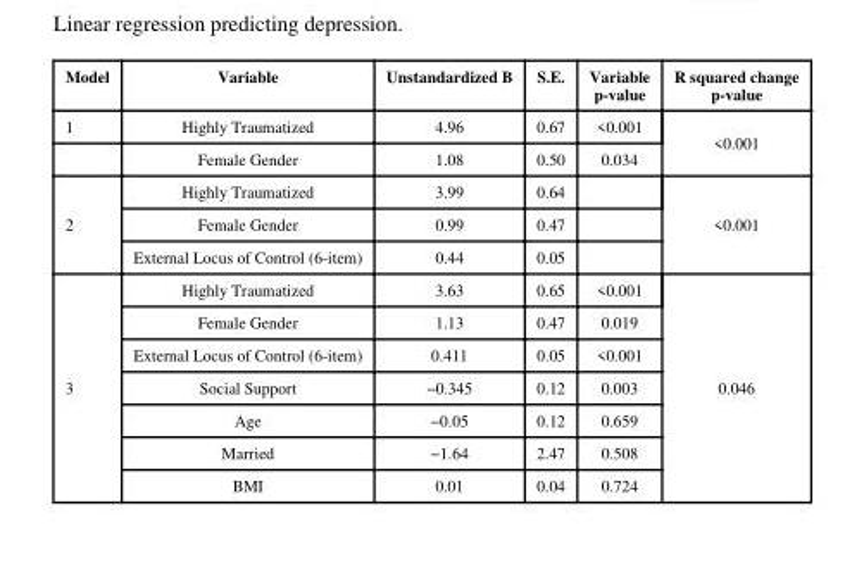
<table><thead><tr><td>Model</td><td>Variable</td><td>Unstandardized B</td><td>S.E.</td><td>Variable p-value</td><td>R squared change p-value</td></tr></thead><tbody><tr><td rowspan="2">1</td><td>Highly Traumatized</td><td>4.96</td><td>0.67</td><td>&lt;0.001</td><td rowspan="2">&lt;0.001</td></tr><tr><td>Female Gender</td><td>1.08</td><td>0.50</td><td>0.034</td></tr><tr><td rowspan="3">2</td><td>Highly Traumatized</td><td>3.99</td><td>0.64</td><td></td><td rowspan="3">&lt;0.001</td></tr><tr><td>Female Gender</td><td>0.99</td><td>0.47</td><td></td></tr><tr><td>External Locus of Control (6-item)</td><td>0.44</td><td>0.05</td><td></td></tr><tr><td rowspan="7">3</td><td>Highly Traumatized</td><td>3.63</td><td>0.65</td><td>&lt;0.001</td><td rowspan="7">0.046</td></tr><tr><td>Female Gender</td><td>1.13</td><td>0.47</td><td>0.019</td></tr><tr><td>External Locus of Control (6-item)</td><td>0.411</td><td>0.05</td><td>&lt;0.001</td></tr><tr><td>Social Support</td><td>−0.345</td><td>0.12</td><td>0.003</td></tr><tr><td>Age</td><td>−0.05</td><td>0.12</td><td>0.659</td></tr><tr><td>Married</td><td>−1.64</td><td>2.47</td><td>0.508</td></tr><tr><td>BMI</td><td>0.01</td><td>0.04</td><td>0.724</td></tr></tbody></table>